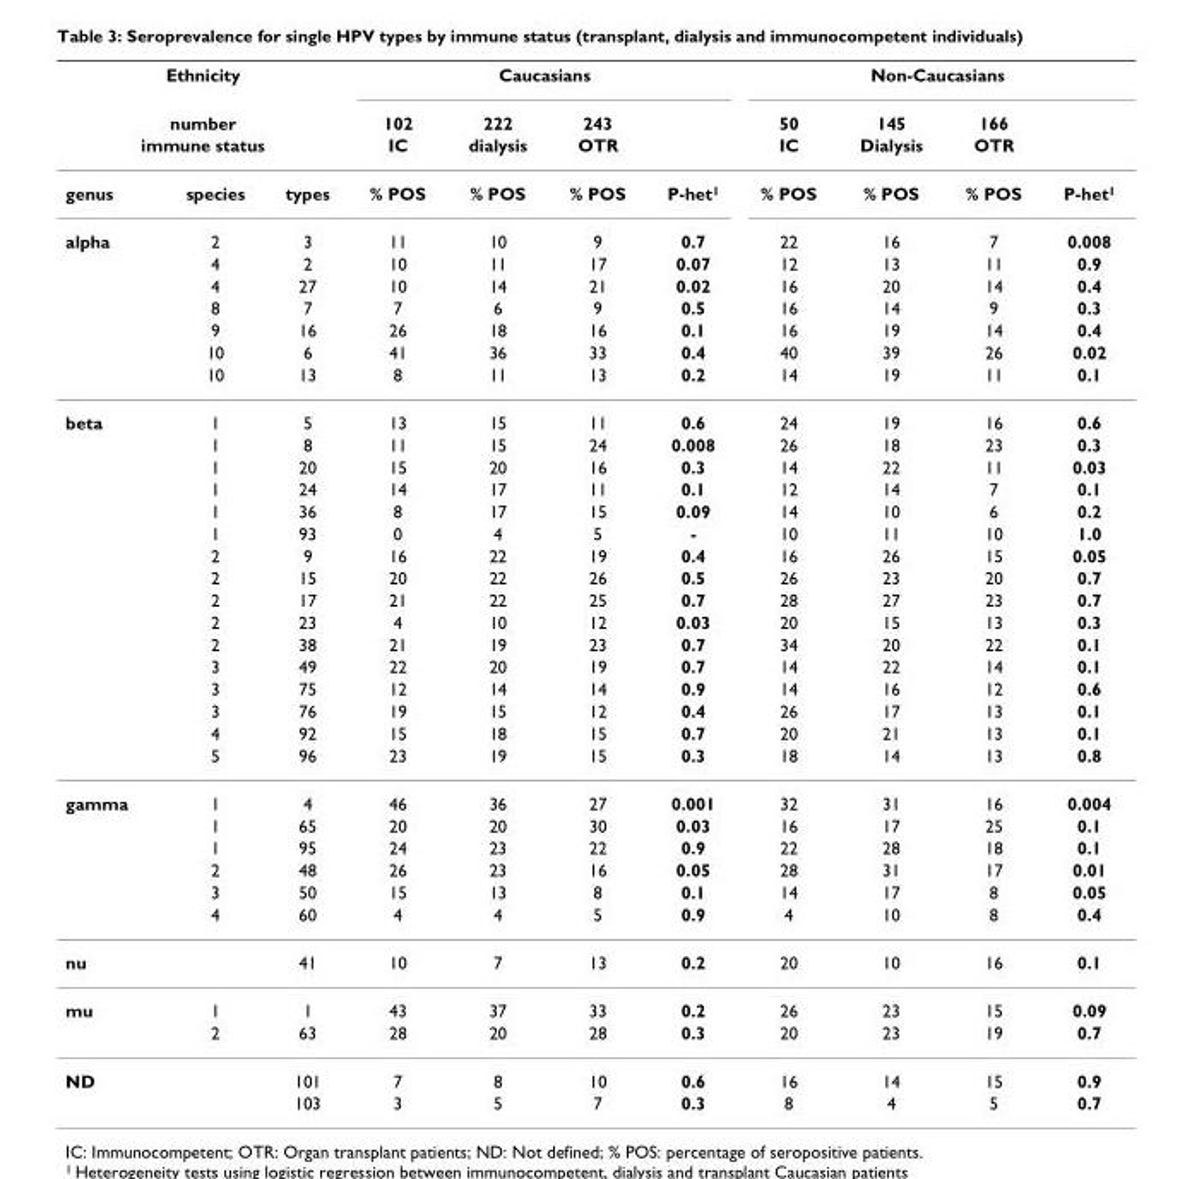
<table><thead><tr><td rowspan="3" colspan="3">Ethnicity number immune status</td><td colspan="4">Caucasians</td><td colspan="4">Non-Caucasians</td></tr><tr><td rowspan="3">102 IC % POS</td><td rowspan="3">222 dialysis % POS</td><td rowspan="3">243 OTR % POS</td><td rowspan="3">P-het1</td><td rowspan="3">50 IC % POS</td><td rowspan="3">145 Dialysis % POS</td><td rowspan="3">166 OTR % POS</td><td rowspan="3">P-het1</td></tr><tr></tr><tr><td>genus</td><td>species</td><td>types</td></tr></thead><tbody><tr><td rowspan="7">alpha</td><td>2</td><td>3</td><td>11</td><td>10</td><td>9</td><td>0.7</td><td>22</td><td>16</td><td>7</td><td>0.008</td></tr><tr><td>4</td><td>2</td><td>10</td><td>11</td><td>17</td><td>0.07</td><td>12</td><td>13</td><td>11</td><td>0.9</td></tr><tr><td>4</td><td>27</td><td>10</td><td>14</td><td>21</td><td>0.02</td><td>16</td><td>20</td><td>14</td><td>0.4</td></tr><tr><td>8</td><td>7</td><td>7</td><td>6</td><td>9</td><td>0.5</td><td>16</td><td>14</td><td>9</td><td>0.3</td></tr><tr><td>9</td><td>16</td><td>26</td><td>18</td><td>16</td><td>0.1</td><td>16</td><td>19</td><td>14</td><td>0.4</td></tr><tr><td>10</td><td>6</td><td>41</td><td>36</td><td>33</td><td>0.4</td><td>40</td><td>39</td><td>26</td><td>0.02</td></tr><tr><td>10</td><td>13</td><td>8</td><td>11</td><td>13</td><td>0.2</td><td>14</td><td>19</td><td>11</td><td>0.1</td></tr><tr><td rowspan="16">beta</td><td>1</td><td>5</td><td>13</td><td>15</td><td>11</td><td>0.6</td><td>24</td><td>19</td><td>16</td><td>0.6</td></tr><tr><td>1</td><td>8</td><td>11</td><td>15</td><td>24</td><td>0.008</td><td>26</td><td>18</td><td>23</td><td>0.3</td></tr><tr><td>1</td><td>20</td><td>15</td><td>20</td><td>16</td><td>0.3</td><td>14</td><td>22</td><td>11</td><td>0.03</td></tr><tr><td>1</td><td>24</td><td>14</td><td>17</td><td>11</td><td>0.1</td><td>12</td><td>14</td><td>7</td><td>0.1</td></tr><tr><td>1</td><td>36</td><td>8</td><td>17</td><td>15</td><td>0.09</td><td>14</td><td>10</td><td>6</td><td>0.2</td></tr><tr><td>1</td><td>93</td><td>0</td><td>4</td><td>5</td><td>-</td><td>10</td><td>11</td><td>10</td><td>1.0</td></tr><tr><td>2</td><td>9</td><td>16</td><td>22</td><td>19</td><td>0.4</td><td>16</td><td>26</td><td>15</td><td>0.05</td></tr><tr><td>2</td><td>15</td><td>20</td><td>22</td><td>26</td><td>0.5</td><td>26</td><td>23</td><td>20</td><td>0.7</td></tr><tr><td>2</td><td>17</td><td>21</td><td>22</td><td>25</td><td>0.7</td><td>28</td><td>27</td><td>23</td><td>0.7</td></tr><tr><td>2</td><td>23</td><td>4</td><td>10</td><td>12</td><td>0.03</td><td>20</td><td>15</td><td>13</td><td>0.3</td></tr><tr><td>2</td><td>38</td><td>21</td><td>19</td><td>23</td><td>0.7</td><td>34</td><td>20</td><td>22</td><td>0.1</td></tr><tr><td>3</td><td>49</td><td>22</td><td>20</td><td>19</td><td>0.7</td><td>14</td><td>22</td><td>14</td><td>0.1</td></tr><tr><td>3</td><td>75</td><td>12</td><td>14</td><td>14</td><td>0.9</td><td>14</td><td>16</td><td>12</td><td>0.6</td></tr><tr><td>3</td><td>76</td><td>19</td><td>15</td><td>12</td><td>0.4</td><td>26</td><td>17</td><td>13</td><td>0.1</td></tr><tr><td>4</td><td>92</td><td>15</td><td>18</td><td>15</td><td>0.7</td><td>20</td><td>21</td><td>13</td><td>0.1</td></tr><tr><td>5</td><td>96</td><td>23</td><td>19</td><td>15</td><td>0.3</td><td>18</td><td>14</td><td>13</td><td>0.8</td></tr><tr><td rowspan="6">gamma</td><td>1</td><td>4</td><td>46</td><td>36</td><td>27</td><td>0.001</td><td>32</td><td>31</td><td>16</td><td>0.004</td></tr><tr><td>1</td><td>65</td><td>20</td><td>20</td><td>30</td><td>0.03</td><td>16</td><td>17</td><td>25</td><td>0.1</td></tr><tr><td>1</td><td>95</td><td>24</td><td>23</td><td>22</td><td>0.9</td><td>22</td><td>28</td><td>18</td><td>0.1</td></tr><tr><td>2</td><td>48</td><td>26</td><td>23</td><td>16</td><td>0.05</td><td>28</td><td>31</td><td>17</td><td>0.01</td></tr><tr><td>3</td><td>50</td><td>15</td><td>13</td><td>8</td><td>0.1</td><td>14</td><td>17</td><td>8</td><td>0.05</td></tr><tr><td>4</td><td>60</td><td>4</td><td>4</td><td>5</td><td>0.9</td><td>4</td><td>10</td><td>8</td><td>0.4</td></tr><tr><td>nu</td><td></td><td>41</td><td>10</td><td>7</td><td>13</td><td>0.2</td><td>20</td><td>10</td><td>16</td><td>0.1</td></tr><tr><td rowspan="2">mu</td><td>1</td><td>1</td><td>43</td><td>37</td><td>33</td><td>0.2</td><td>26</td><td>23</td><td>15</td><td>0.09</td></tr><tr><td>2</td><td>63</td><td>28</td><td>20</td><td>28</td><td>0.3</td><td>20</td><td>23</td><td>19</td><td>0.7</td></tr><tr><td rowspan="2">ND</td><td></td><td>101</td><td>7</td><td>8</td><td>10</td><td>0.6</td><td>16</td><td>14</td><td>15</td><td>0.9</td></tr><tr><td></td><td>103</td><td>3</td><td>5</td><td>7</td><td>0.3</td><td>8</td><td>4</td><td>5</td><td>0.7</td></tr></tbody></table>